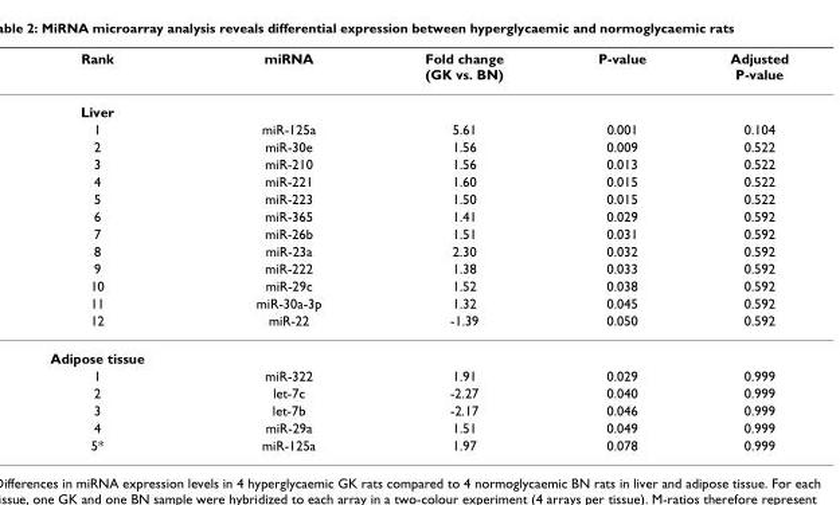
<table><thead><tr><td>Rank</td><td>miRNA</td><td>Fold change (GK vs. BN)</td><td>P-value</td><td>Adjusted P-value</td></tr></thead><tbody><tr><td colspan="5">Liver</td></tr><tr><td>1</td><td>miR-125a</td><td>5.61</td><td>0.001</td><td>0.104</td></tr><tr><td>2</td><td>miR-30e</td><td>1.56</td><td>0.009</td><td>0.522</td></tr><tr><td>3</td><td>miR-210</td><td>1.56</td><td>0.013</td><td>0.522</td></tr><tr><td>4</td><td>miR-221</td><td>1.60</td><td>0.015</td><td>0.522</td></tr><tr><td>5</td><td>miR-223</td><td>1.50</td><td>0.015</td><td>0.522</td></tr><tr><td>6</td><td>miR-365</td><td>1.41</td><td>0.029</td><td>0.592</td></tr><tr><td>7</td><td>miR-26b</td><td>1.51</td><td>0.031</td><td>0.592</td></tr><tr><td>8</td><td>miR-23a</td><td>2.30</td><td>0.032</td><td>0.592</td></tr><tr><td>9</td><td>miR-222</td><td>1.38</td><td>0.033</td><td>0.592</td></tr><tr><td>10</td><td>miR-29c</td><td>1.52</td><td>0.038</td><td>0.592</td></tr><tr><td>11</td><td>miR-30a-3p</td><td>1.32</td><td>0.045</td><td>0.592</td></tr><tr><td>12</td><td>miR-22</td><td>-1.39</td><td>0.050</td><td>0.592</td></tr><tr><td colspan="5">Adipose tissue</td></tr><tr><td>1</td><td>miR-322</td><td>1.91</td><td>0.029</td><td>0.999</td></tr><tr><td>2</td><td>let-7c</td><td>-2.27</td><td>0.040</td><td>0.999</td></tr><tr><td>3</td><td>let-7b</td><td>-2.17</td><td>0.046</td><td>0.999</td></tr><tr><td>4</td><td>miR-29a</td><td>1.51</td><td>0.049</td><td>0.999</td></tr><tr><td>5*</td><td>miR-125a</td><td>1.97</td><td>0.078</td><td>0.999</td></tr></tbody></table>